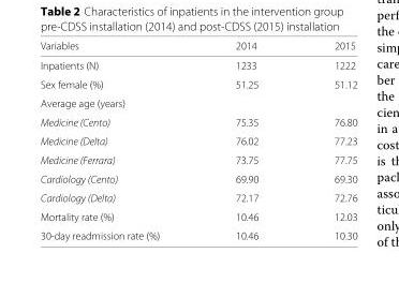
<table><thead><tr><td>Variables</td><td>2014</td><td>2015</td></tr></thead><tbody><tr><td>Inpatients (N)</td><td>1233</td><td>1222</td></tr><tr><td>Sex female (%)</td><td>51.25</td><td>51.12</td></tr><tr><td colspan="3">Average age (years)</td></tr><tr><td>Medicine (Cento)</td><td>75.35</td><td>76.80</td></tr><tr><td>Medicine (Delta)</td><td>76.02</td><td>77.23</td></tr><tr><td>Medicine (Ferrara)</td><td>73.75</td><td>77.75</td></tr><tr><td>Cardiology (Cento)</td><td>69.90</td><td>69.30</td></tr><tr><td>Cardiology (Delta)</td><td>72.17</td><td>72.76</td></tr><tr><td>Mortality rate (%)</td><td>10.46</td><td>12.03</td></tr><tr><td>30-day readmission rate (%)</td><td>10.46</td><td>10.30</td></tr></tbody></table>